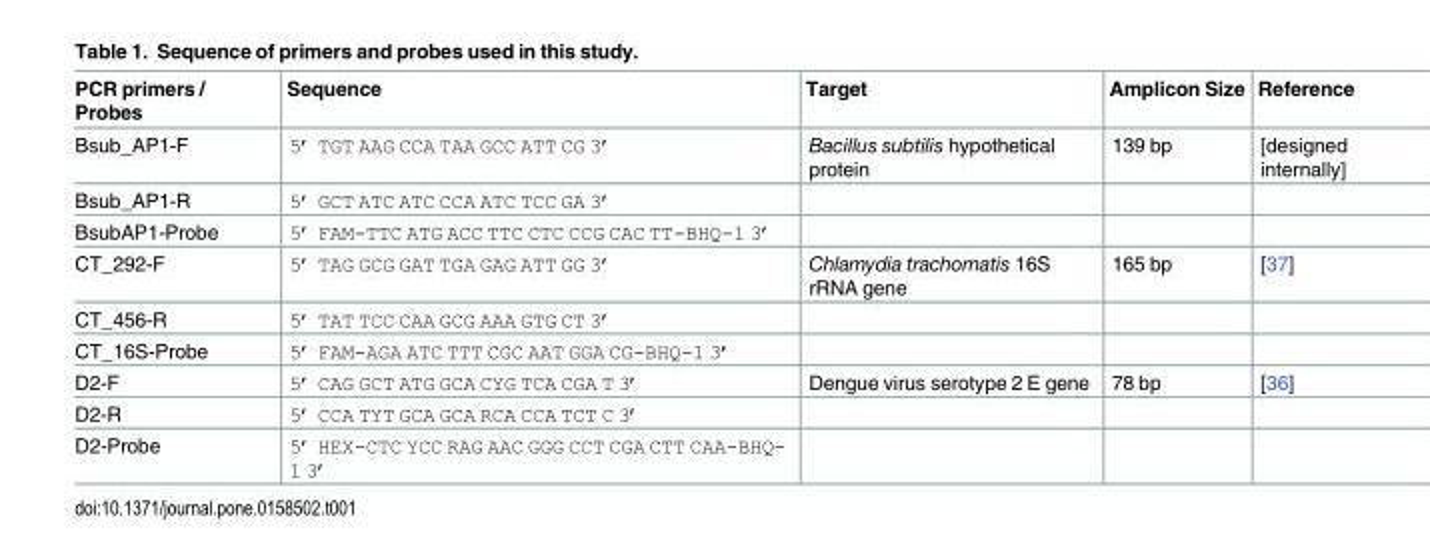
<table><thead><tr><td>PCR primers / Probes</td><td>Sequence</td><td>Target</td><td>Amplicon Size</td><td>Reference</td></tr></thead><tbody><tr><td>Bsub_AP1-F</td><td>5’ TGT AAG CCA TAA GCC ATT CG 3’</td><td>Bacillus subtilis hypothetical protein</td><td>139 bp</td><td>[designed internally]</td></tr><tr><td>Bsub_AP1-R</td><td>5’ GCT ATC ATC CCA ATC TCC GA 3’</td><td></td><td></td><td></td></tr><tr><td>BsubAP1-Probe</td><td>5’ FAM-TTC ATG ACC TTC CTC CCG CAC TT-BHQ-1 3’</td><td></td><td></td><td></td></tr><tr><td>CT_292-F</td><td>5’ TAG GCG GAT TGA GAG ATT GG 3’</td><td>Chlamydia trachomatis 16S rRNA gene</td><td>165 bp</td><td>[37]</td></tr><tr><td>CT_456-R</td><td>5’ TAT TCC CAA GCG AAA GTG CT 3’</td><td></td><td></td><td></td></tr><tr><td>CT_16S-Probe</td><td>5’ FAM-AGA ATC TTT CGC AAT GGA CG-BHQ-1 3’</td><td></td><td></td><td></td></tr><tr><td>D2-F</td><td>5’ CAG GCT ATG GCA CYG TCA CGA T 3’</td><td>Dengue virus serotype 2 E gene</td><td>78 bp</td><td>[36]</td></tr><tr><td>D2-R</td><td>5’ CCA TYT GCA GCA RCA CCA TCT C 3’</td><td></td><td></td><td></td></tr><tr><td>D2-Probe</td><td>5’ HEX-CTC YCC RAG AAC GGG CCT CGA CTT CAA-BHQ- 1 3’</td><td></td><td></td><td></td></tr></tbody></table>